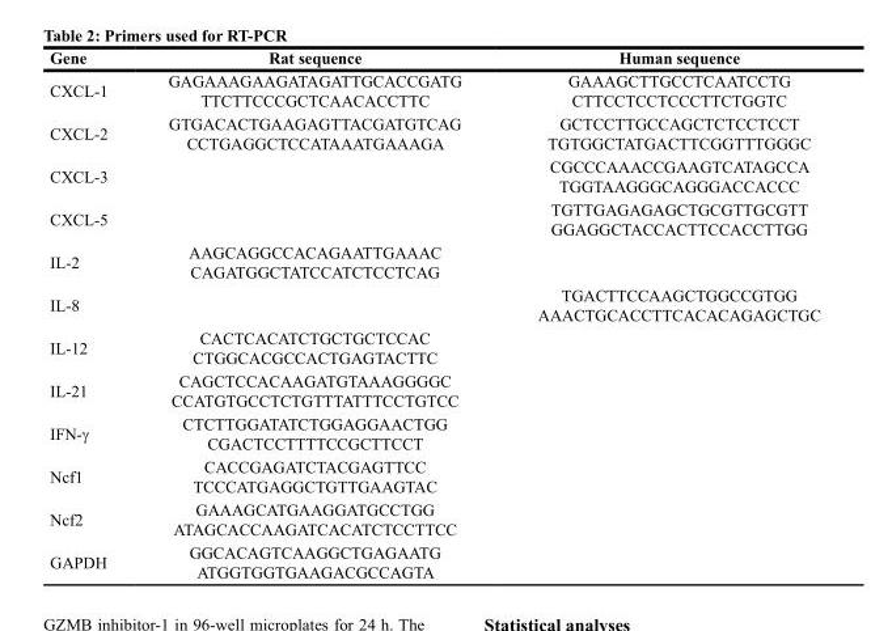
<table><thead><tr><td>Gene</td><td>Rat sequence</td><td>Human sequence</td></tr></thead><tbody><tr><td>CXCL-1</td><td>GAGAAAGAAGATAGATTGCACCGATG TTCTTCCCGCTCAACACCTTC</td><td>GAAAGCTTGCCTCAATCCTG CTTCCTCCTCCCTTCTGGTC</td></tr><tr><td>CXCL-2</td><td>GTGACACTGAAGAGTTACGATGTCAG CCTGAGGCTCCATAAATGAAAGA</td><td>GCTCCTTGCCAGCTCTCCTCCT TGTGGCTATGACTTCGGTTTGGGC</td></tr><tr><td>CXCL-3</td><td></td><td>CGCCCAAACCGAAGTCATAGCCA TGGTAAGGGCAGGGACCACCC</td></tr><tr><td>CXCL-5</td><td></td><td>TGTTGAGAGAGCTGCGTTGCGTT GGAGGCTACCACTTCCACCTTGG</td></tr><tr><td>IL-2</td><td>AAGCAGGCCACAGAATTGAAAC CAGATGGCTATCCATCTCCTCAG</td><td></td></tr><tr><td>IL-8</td><td></td><td>TGACTTCCAAGCTGGCCGTGG AAACTGCACCTTCACACAGAGCTGC</td></tr><tr><td>IL-12</td><td>CACTCACATCTGCTGCTCCAC CTGGCACGCCACTGAGTACTTC</td><td></td></tr><tr><td>IL-21</td><td>CAGCTCCACAAGATGTAAAGGGGC CCATGTGCCTCTGTTTATTTCCTGTCC</td><td></td></tr><tr><td>IFN-γ</td><td>CTCTTGGATATCTGGAGGAACTGG CGACTCCTTTTCCGCTTCCT</td><td></td></tr><tr><td>Ncf1</td><td>CACCGAGATCTACGAGTTCC TCCCATGAGGCTGTTGAAGTAC</td><td></td></tr><tr><td>Ncf2</td><td>GAAAGCATGAAGGATGCCTGG ATAGCACCAAGATCACATCTCCTTCC</td><td></td></tr><tr><td>GAPDH</td><td>GGCACAGTCAAGGCTGAGAATG ATGGTGGTGAAGACGCCAGTA</td><td></td></tr></tbody></table>